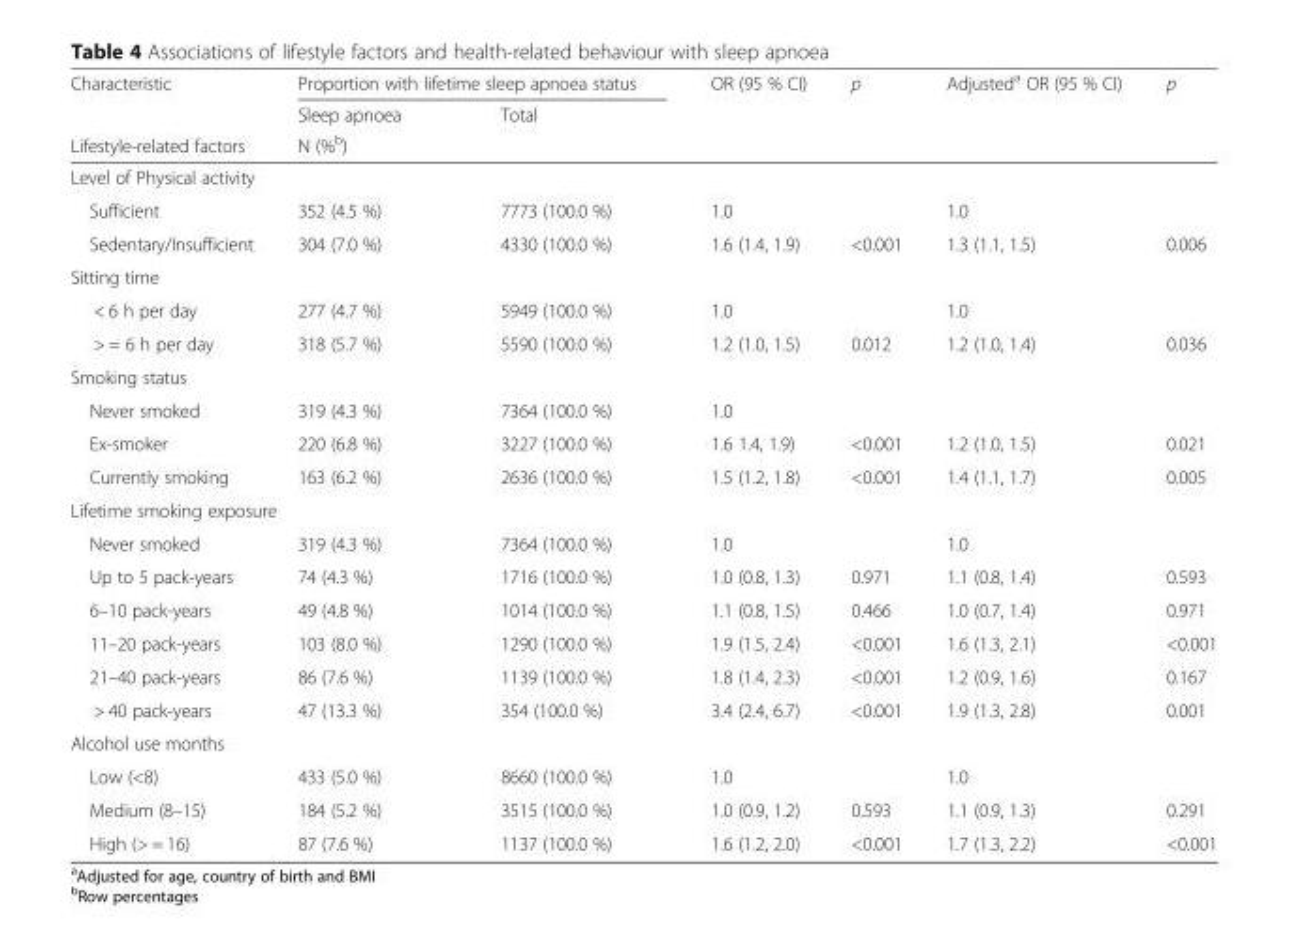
<table><thead><tr><td rowspan="3">Characteristic Lifestyle-related factors</td><td colspan="2">Proportion with lifetime sleep apnoea status</td><td rowspan="3">OR (95 % CI)</td><td rowspan="3">p</td><td rowspan="3">Adjusted<sup>a</sup> OR (95 % CI)</td><td rowspan="3">p</td></tr><tr><td>Sleep apnoea</td><td>Total</td></tr><tr><td colspan="2">N (%<sup>b</sup>)</td></tr></thead><tbody><tr><td colspan="7">Level of Physical activity</td></tr><tr><td>Sufficient</td><td>352 (4.5 %)</td><td>7773 (100.0 %)</td><td>1.0</td><td></td><td>1.0</td><td></td></tr><tr><td>Sedentary/Insufficient</td><td>304 (7.0 %)</td><td>4330 (100.0 %)</td><td>1.6 (1.4, 1.9)</td><td>&lt;0.001</td><td>1.3 (1.1, 1.5)</td><td>0.006</td></tr><tr><td colspan="7">Sitting time</td></tr><tr><td>&lt; 6 h per day</td><td>277 (4.7 %)</td><td>5949 (100.0 %)</td><td>1.0</td><td></td><td>1.0</td><td></td></tr><tr><td>&gt; = 6 h per day</td><td>318 (5.7 %)</td><td>5590 (100.0 %)</td><td>1.2 (1.0, 1.5)</td><td>0.012</td><td>1.2 (1.0, 1.4)</td><td>0.036</td></tr><tr><td colspan="7">Smoking status</td></tr><tr><td>Never smoked</td><td>319 (4.3 %)</td><td>7364 (100.0 %)</td><td>1.0</td><td></td><td></td><td></td></tr><tr><td>Ex-smoker</td><td>220 (6.8 %)</td><td>3227 (100.0 %)</td><td>1.6 1.4, 1.9)</td><td>&lt;0.001</td><td>1.2 (1.0, 1.5)</td><td>0.021</td></tr><tr><td>Currently smoking</td><td>163 (6.2 %)</td><td>2636 (100.0 %)</td><td>1.5 (1.2, 1.8)</td><td>&lt;0.001</td><td>1.4 (1.1, 1.7)</td><td>0.005</td></tr><tr><td colspan="7">Lifetime smoking exposure</td></tr><tr><td>Never smoked</td><td>319 (4.3 %)</td><td>7364 (100.0 %)</td><td>1.0</td><td></td><td>1.0</td><td></td></tr><tr><td>Up to 5 pack-years</td><td>74 (4.3 %)</td><td>1716 (100.0 %)</td><td>1.0 (0.8, 1.3)</td><td>0.971</td><td>1.1 (0.8, 1.4)</td><td>0.593</td></tr><tr><td>6–10 pack-years</td><td>49 (4.8 %)</td><td>1014 (100.0 %)</td><td>1.1 (0.8, 1.5)</td><td>0.466</td><td>1.0 (0.7, 1.4)</td><td>0.971</td></tr><tr><td>11–20 pack-years</td><td>103 (8.0 %)</td><td>1290 (100.0 %)</td><td>1.9 (1.5, 2.4)</td><td>&lt;0.001</td><td>1.6 (1.3, 2.1)</td><td>&lt;0.001</td></tr><tr><td>21–40 pack-years</td><td>86 (7.6 %)</td><td>1139 (100.0 %)</td><td>1.8 (1.4, 2.3)</td><td>&lt;0.001</td><td>1.2 (0.9, 1.6)</td><td>0.167</td></tr><tr><td>&gt; 40 pack-years</td><td>47 (13.3 %)</td><td>354 (100.0 %)</td><td>3.4 (2.4, 6.7)</td><td>&lt;0.001</td><td>1.9 (1.3, 2.8)</td><td>0.001</td></tr><tr><td colspan="7">Alcohol use months</td></tr><tr><td>Low (&lt;8)</td><td>433 (5.0 %)</td><td>8660 (100.0 %)</td><td>1.0</td><td></td><td>1.0</td><td></td></tr><tr><td>Medium (8–15)</td><td>184 (5.2 %)</td><td>3515 (100.0 %)</td><td>1.0 (0.9, 1.2)</td><td>0.593</td><td>1.1 (0.9, 1.3)</td><td>0.291</td></tr><tr><td>High (&gt; = 16)</td><td>87 (7.6 %)</td><td>1137 (100.0 %)</td><td>1.6 (1.2, 2.0)</td><td>&lt;0.001</td><td>1.7 (1.3, 2.2)</td><td>&lt;0.001</td></tr></tbody></table>